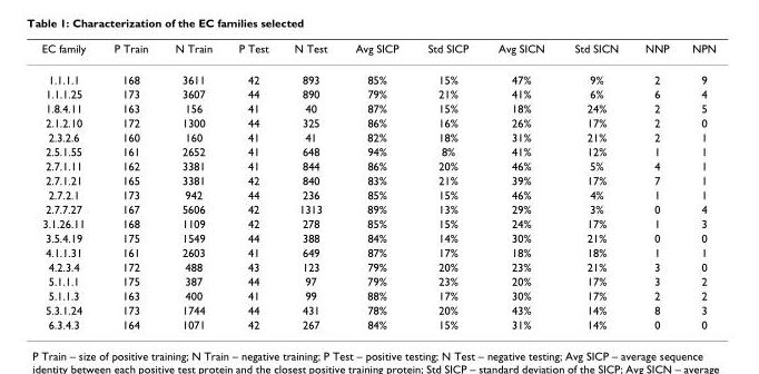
<table><thead><tr><td>EC family</td><td>P Train</td><td>N Train</td><td>P Test</td><td>N Test</td><td>Avg SICP</td><td>Std SICP</td><td>Avg SICN</td><td>Std SICN</td><td>NNP</td><td>NPN</td></tr></thead><tbody><tr><td>1.1.1.1</td><td>168</td><td>3611</td><td>42</td><td>893</td><td>85%</td><td>15%</td><td>47%</td><td>9%</td><td>2</td><td>9</td></tr><tr><td>1.1.1.25</td><td>173</td><td>3607</td><td>44</td><td>890</td><td>79%</td><td>21%</td><td>41%</td><td>6%</td><td>6</td><td>4</td></tr><tr><td>1.8.4.11</td><td>163</td><td>156</td><td>41</td><td>40</td><td>87%</td><td>15%</td><td>18%</td><td>24%</td><td>2</td><td>5</td></tr><tr><td>2.1.2.10</td><td>172</td><td>1300</td><td>44</td><td>325</td><td>86%</td><td>16%</td><td>26%</td><td>17%</td><td>2</td><td>0</td></tr><tr><td>2.3.2.6</td><td>160</td><td>160</td><td>41</td><td>41</td><td>82%</td><td>18%</td><td>31%</td><td>21%</td><td>2</td><td>1</td></tr><tr><td>2.5.1.55</td><td>161</td><td>2652</td><td>41</td><td>648</td><td>94%</td><td>8%</td><td>41%</td><td>12%</td><td>1</td><td>1</td></tr><tr><td>2.7.1.11</td><td>162</td><td>3381</td><td>41</td><td>844</td><td>86%</td><td>20%</td><td>46%</td><td>5%</td><td>4</td><td>1</td></tr><tr><td>2.7.1.21</td><td>165</td><td>3381</td><td>42</td><td>840</td><td>83%</td><td>21%</td><td>39%</td><td>17%</td><td>7</td><td>1</td></tr><tr><td>2.7.2.1</td><td>173</td><td>942</td><td>44</td><td>236</td><td>85%</td><td>15%</td><td>46%</td><td>4%</td><td>1</td><td>1</td></tr><tr><td>2.7.7.27</td><td>167</td><td>5606</td><td>42</td><td>1313</td><td>89%</td><td>13%</td><td>29%</td><td>3%</td><td>0</td><td>4</td></tr><tr><td>3.1.26.11</td><td>168</td><td>1109</td><td>42</td><td>278</td><td>85%</td><td>15%</td><td>24%</td><td>17%</td><td>1</td><td>3</td></tr><tr><td>3.5.4.19</td><td>175</td><td>1549</td><td>44</td><td>388</td><td>84%</td><td>14%</td><td>30%</td><td>21%</td><td>0</td><td>0</td></tr><tr><td>4.1.1.31</td><td>161</td><td>2603</td><td>41</td><td>649</td><td>87%</td><td>17%</td><td>18%</td><td>18%</td><td>1</td><td>1</td></tr><tr><td>4.2.3.4</td><td>172</td><td>488</td><td>43</td><td>123</td><td>79%</td><td>20%</td><td>23%</td><td>21%</td><td>3</td><td>0</td></tr><tr><td>5.1.1.1</td><td>175</td><td>387</td><td>44</td><td>97</td><td>79%</td><td>23%</td><td>20%</td><td>17%</td><td>3</td><td>2</td></tr><tr><td>5.1.1.3</td><td>163</td><td>400</td><td>41</td><td>99</td><td>88%</td><td>17%</td><td>30%</td><td>17%</td><td>2</td><td>2</td></tr><tr><td>5.3.1.24</td><td>173</td><td>1744</td><td>44</td><td>431</td><td>78%</td><td>20%</td><td>43%</td><td>14%</td><td>8</td><td>3</td></tr><tr><td>6.3.4.3</td><td>164</td><td>1071</td><td>42</td><td>267</td><td>84%</td><td>15%</td><td>31%</td><td>14%</td><td>0</td><td>0</td></tr></tbody></table>